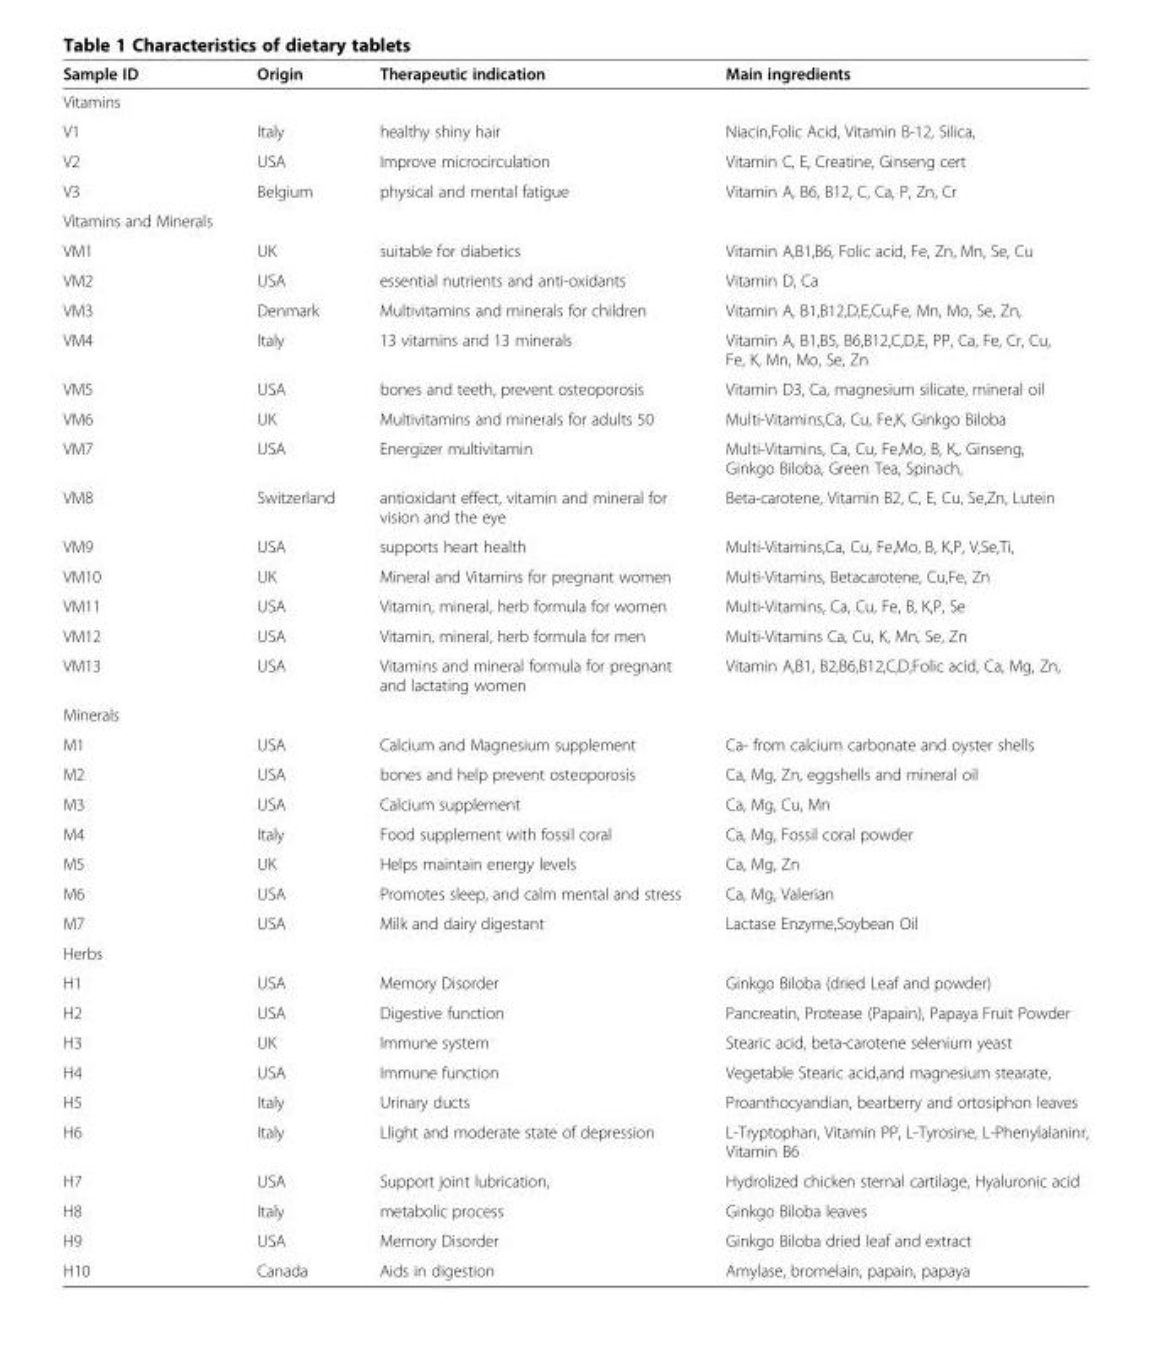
<table><thead><tr><td>Sample ID</td><td>Origin</td><td>Therapeutic indication</td><td>Main ingredients</td></tr></thead><tbody><tr><td colspan="4">Vitamins</td></tr><tr><td>V1</td><td>Italy</td><td>healthy shiny hair</td><td>Niacin,Folic Acid, Vitamin B-12, Silica,</td></tr><tr><td>V2</td><td>USA</td><td>Improve microcirculation</td><td>Vitamin C, E, Creatine, Ginseng cert</td></tr><tr><td>V3</td><td>Belgium</td><td>physical and mental fatigue</td><td>Vitamin A, B6, B12, C, Ca, P, Zn, Cr</td></tr><tr><td colspan="4">Vitamins and Minerals</td></tr><tr><td>VM1</td><td>UK</td><td>suitable for diabetics</td><td>Vitamin A,B1,B6, Folic acid, Fe, Zn, Mn, Se, Cu</td></tr><tr><td>VM2</td><td>USA</td><td>essential nutrients and anti-oxidants</td><td>Vitamin D, Ca</td></tr><tr><td>VM3</td><td>Denmark</td><td>Multivitamins and minerals for children</td><td>Vitamin A, B1,B12,D,E,Cu,Fe, Mn, Mo, Se, Zn,</td></tr><tr><td>VM4</td><td>Italy</td><td>13 vitamins and 13 minerals</td><td>Vitamin A, B1,B5, B6,B12,C,D,E, PP, Ca, Fe, Cr, Cu, Fe, K, Mn, Mo, Se, Zn</td></tr><tr><td>VM5</td><td>USA</td><td>bones and teeth, prevent osteoporosis</td><td>Vitamin D3, Ca, magnesium silicate, mineral oil</td></tr><tr><td>VM6</td><td>UK</td><td>Multivitamins and minerals for adults 50</td><td>Multi-Vitamins,Ca, Cu, Fe,K, Ginkgo Biloba</td></tr><tr><td>VM7</td><td>USA</td><td>Energizer multivitamin</td><td>Multi-Vitamins, Ca, Cu, Fe,Mo, B, K,, Ginseng, Ginkgo Biloba, Green Tea, Spinach,</td></tr><tr><td>VM8</td><td>Switzerland</td><td>antioxidant effect, vitamin and mineral for vision and the eye</td><td>Beta-carotene, Vitamin B2, C, E, Cu, Se,Zn, Lutein</td></tr><tr><td>VM9</td><td>USA</td><td>supports heart health</td><td>Multi-Vitamins,Ca, Cu, Fe,Mo, B, K,P, V,Se,Ti,</td></tr><tr><td>VM10</td><td>UK</td><td>Mineral and Vitamins for pregnant women</td><td>Multi-Vitamins, Betacarotene, Cu,Fe, Zn</td></tr><tr><td>VM11</td><td>USA</td><td>Vitamin, mineral, herb formula for women</td><td>Multi-Vitamins, Ca, Cu, Fe, B, K,P, Se</td></tr><tr><td>VM12</td><td>USA</td><td>Vitamin, mineral, herb formula for men</td><td>Multi-Vitamins Ca, Cu, K, Mn, Se, Zn</td></tr><tr><td>VM13</td><td>USA</td><td>Vitamins and mineral formula for pregnant and lactating women</td><td>Vitamin A,B1, B2,B6,B12,C,D,Folic acid, Ca, Mg, Zn,</td></tr><tr><td colspan="4">Minerals</td></tr><tr><td>M1</td><td>USA</td><td>Calcium and Magnesium supplement</td><td>Ca- from calcium carbonate and oyster shells</td></tr><tr><td>M2</td><td>USA</td><td>bones and help prevent osteoporosis</td><td>Ca, Mg, Zn, eggshells and mineral oil</td></tr><tr><td>M3</td><td>USA</td><td>Calcium supplement</td><td>Ca, Mg, Cu, Mn</td></tr><tr><td>M4</td><td>Italy</td><td>Food supplement with fossil coral</td><td>Ca, Mg, Fossil coral powder</td></tr><tr><td>M5</td><td>UK</td><td>Helps maintain energy levels</td><td>Ca, Mg, Zn</td></tr><tr><td>M6</td><td>USA</td><td>Promotes sleep, and calm mental and stress</td><td>Ca, Mg, Valerian</td></tr><tr><td>M7</td><td>USA</td><td>Milk and dairy digestant</td><td>Lactase Enzyme,Soybean Oil</td></tr><tr><td colspan="4">Herbs</td></tr><tr><td>H1</td><td>USA</td><td>Memory Disorder</td><td>Ginkgo Biloba (dried Leaf and powder)</td></tr><tr><td>H2</td><td>USA</td><td>Digestive function</td><td>Pancreatin, Protease (Papain), Papaya Fruit Powder</td></tr><tr><td>H3</td><td>UK</td><td>Immune system</td><td>Stearic acid, beta-carotene selenium yeast</td></tr><tr><td>H4</td><td>USA</td><td>Immune function</td><td>Vegetable Stearic acid,and magnesium stearate,</td></tr><tr><td>H5</td><td>Italy</td><td>Urinary ducts</td><td>Proanthocyandian, bearberry and ortosiphon leaves</td></tr><tr><td>H6</td><td>Italy</td><td>Llight and moderate state of depression</td><td>L-Tryptophan, Vitamin PP, L-Tyrosine, L-Phenylalaninr, Vitamin B6</td></tr><tr><td>H7</td><td>USA</td><td>Support joint lubrication,</td><td>Hydrolized chicken sternal cartilage, Hyaluronic acid</td></tr><tr><td>H8</td><td>Italy</td><td>metabolic process</td><td>Ginkgo Biloba leaves</td></tr><tr><td>H9</td><td>USA</td><td>Memory Disorder</td><td>Ginkgo Biloba dried leaf and extract</td></tr><tr><td>H10</td><td>Canada</td><td>Aids in digestion</td><td>Amylase, bromelain, papain, papaya</td></tr></tbody></table>